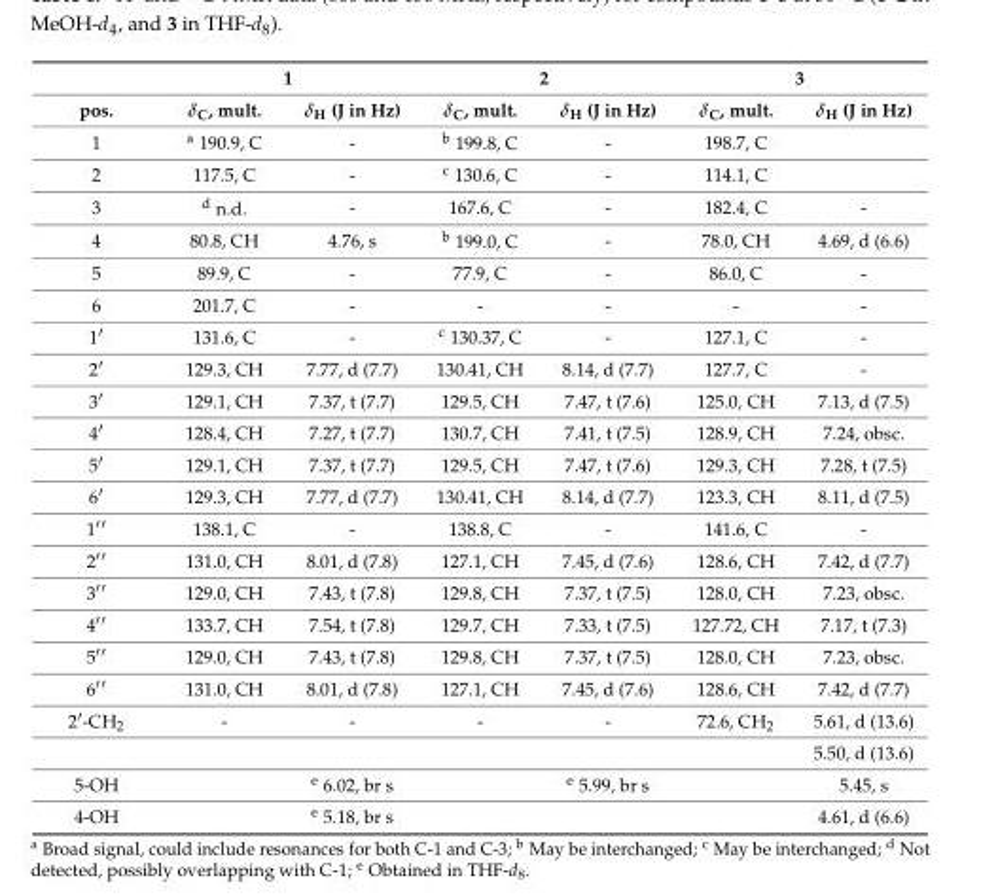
<table><thead><tr><td rowspan="2">pos.</td><td colspan="2">1</td><td colspan="2">2</td><td colspan="2">3</td></tr><tr><td>δ<sub>C</sub>, mult.</td><td>δ<sub>H</sub> (J in Hz)</td><td>δ<sub>C</sub>, mult.</td><td>δ<sub>H</sub> (J in Hz)</td><td>δ<sub>C</sub>, mult.</td><td>δ<sub>H</sub> (J in Hz)</td></tr></thead><tbody><tr><td>1</td><td><sup>a</sup> 190.9, C</td><td>-</td><td><sup>b</sup> 199.8, C</td><td>-</td><td>198.7, C</td><td></td></tr><tr><td>2</td><td>117.5, C</td><td>-</td><td><sup>c</sup> 130.6, C</td><td>-</td><td>114.1, C</td><td></td></tr><tr><td>3</td><td><sup>d</sup> n.d.</td><td>-</td><td>167.6, C</td><td>-</td><td>182.4, C</td><td>-</td></tr><tr><td>4</td><td>80.8, CH</td><td>4.76, s</td><td><sup>b</sup> 199.0, C</td><td>-</td><td>78.0, CH</td><td>4.69, d (6.6)</td></tr><tr><td>5</td><td>89.9, C</td><td>-</td><td>77.9, C</td><td>-</td><td>86.0, C</td><td>-</td></tr><tr><td>6</td><td>201.7, C</td><td>-</td><td>-</td><td>-</td><td>-</td><td>-</td></tr><tr><td>1′</td><td>131.6, C</td><td>-</td><td><sup>c</sup> 130.37, C</td><td>-</td><td>127.1, C</td><td>-</td></tr><tr><td>2′</td><td>129.3, CH</td><td>7.77, d (7.7)</td><td>130.41, CH</td><td>8.14, d (7.7)</td><td>127.7, C</td><td>-</td></tr><tr><td>3′</td><td>129.1, CH</td><td>7.37, t (7.7)</td><td>129.5, CH</td><td>7.47, t (7.6)</td><td>125.0, CH</td><td>7.13, d (7.5)</td></tr><tr><td>4′</td><td>128.4, CH</td><td>7.27, t (7.7)</td><td>130.7, CH</td><td>7.41, t (7.5)</td><td>128.9, CH</td><td>7.24, obsc.</td></tr><tr><td>5′</td><td>129.1, CH</td><td>7.37, t (7.7)</td><td>129.5, CH</td><td>7.47, t (7.6)</td><td>129.3, CH</td><td>7.28, t (7.5)</td></tr><tr><td>6′</td><td>129.3, CH</td><td>7.77, d (7.7)</td><td>130.41, CH</td><td>8.14, d (7.7)</td><td>123.3, CH</td><td>8.11, d (7.5)</td></tr><tr><td>1′′</td><td>138.1, C</td><td>-</td><td>138.8, C</td><td>-</td><td>141.6, C</td><td>-</td></tr><tr><td>2′′</td><td>131.0, CH</td><td>8.01, d (7.8)</td><td>127.1, CH</td><td>7.45, d (7.6)</td><td>128.6, CH</td><td>7.42, d (7.7)</td></tr><tr><td>3′′</td><td>129.0, CH</td><td>7.43, t (7.8)</td><td>129.8, CH</td><td>7.37, t (7.5)</td><td>128.0, CH</td><td>7.23, obsc.</td></tr><tr><td>4′′</td><td>133.7, CH</td><td>7.54, t (7.8)</td><td>129.7, CH</td><td>7.33, t (7.5)</td><td>127.72, CH</td><td>7.17, t (7.3)</td></tr><tr><td>5′′</td><td>129.0, CH</td><td>7.43, t (7.8)</td><td>129.8, CH</td><td>7.37, t (7.5)</td><td>128.0, CH</td><td>7.23, obsc.</td></tr><tr><td>6′′</td><td>131.0, CH</td><td>8.01, d (7.8)</td><td>127.1, CH</td><td>7.45, d (7.6)</td><td>128.6, CH</td><td>7.42, d (7.7)</td></tr><tr><td rowspan="2">2′-CH<sub>2</sub></td><td>-</td><td>-</td><td>-</td><td>-</td><td>72.6, CH<sub>2</sub></td><td>5.61, d (13.6)</td></tr><tr><td></td><td></td><td></td><td></td><td></td><td>5.50, d (13.6)</td></tr><tr><td>5-OH</td><td></td><td><sup>e</sup> 6.02, br s</td><td></td><td><sup>e</sup> 5.99, br s</td><td></td><td>5.45, s</td></tr><tr><td>4-OH</td><td></td><td><sup>e</sup> 5.18, br s</td><td></td><td></td><td></td><td>4.61, d (6.6)</td></tr></tbody></table>